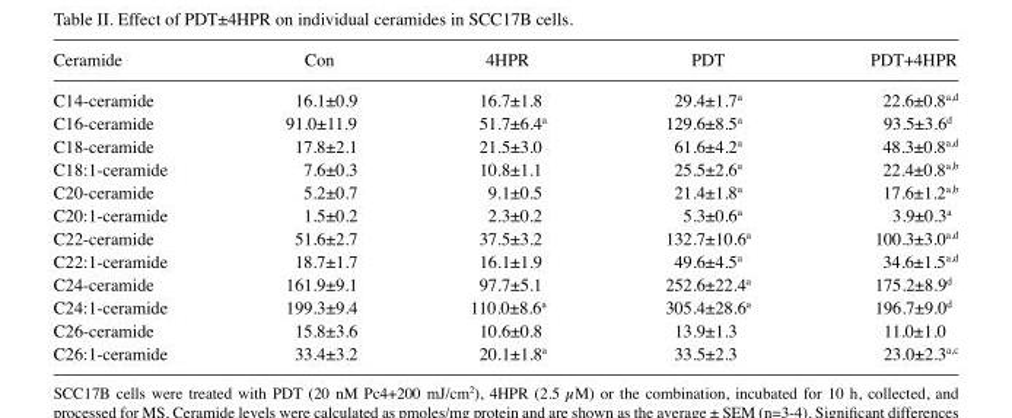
<table><thead><tr><td>Ceramide</td><td>Con</td><td>4HPR</td><td>PDT</td><td>PDT+4HPR</td></tr></thead><tbody><tr><td>C14-ceramide</td><td>16.1±0.9</td><td>16.7±1.8</td><td>29.4±1.7<sup>a</sup></td><td>22.6±0.8<sup>a</sup>,<sup>d</sup></td></tr><tr><td>C16-ceramide</td><td>91.0±11.9</td><td>51.7±6.4<sup>a</sup></td><td>129.6±8.5<sup>a</sup></td><td>93.5±3.6<sup>d</sup></td></tr><tr><td>C18-ceramide</td><td>17.8±2.1</td><td>21.5±3.0</td><td>61.6±4.2<sup>a</sup></td><td>48.3±0.8<sup>a</sup>,<sup>d</sup></td></tr><tr><td>C18:1-ceramide</td><td>7.6±0.3</td><td>10.8±1.1</td><td>25.5±2.6<sup>a</sup></td><td>22.4±0.8<sup>a</sup>,<sup>b</sup></td></tr><tr><td>C20-ceramide</td><td>5.2±0.7</td><td>9.1±0.5</td><td>21.4±1.8<sup>a</sup></td><td>17.6±1.2<sup>a</sup>,<sup>b</sup></td></tr><tr><td>C20:1-ceramide</td><td>1.5±0.2</td><td>2.3±0.2</td><td>5.3±0.6<sup>a</sup></td><td>3.9±0.3<sup>a</sup></td></tr><tr><td>C22-ceramide</td><td>51.6±2.7</td><td>37.5±3.2</td><td>132.7±10.6<sup>a</sup></td><td>100.3±3.0<sup>a</sup>,<sup>d</sup></td></tr><tr><td>C22:1-ceramide</td><td>18.7±1.7</td><td>16.1±1.9</td><td>49.6±4.5<sup>a</sup></td><td>34.6±1.5<sup>a</sup>,<sup>d</sup></td></tr><tr><td>C24-ceramide</td><td>161.9±9.1</td><td>97.7±5.1</td><td>252.6±22.4<sup>a</sup></td><td>175.2±8.9<sup>d</sup></td></tr><tr><td>C24:1-ceramide</td><td>199.3±9.4</td><td>110.0±8.6<sup>a</sup></td><td>305.4±28.6<sup>a</sup></td><td>196.7±9.0<sup>d</sup></td></tr><tr><td>C26-ceramide</td><td>15.8±3.6</td><td>10.6±0.8</td><td>13.9±1.3</td><td>11.0±1.0</td></tr><tr><td>C26:1-ceramide</td><td>33.4±3.2</td><td>20.1±1.8<sup>a</sup></td><td>33.5±2.3</td><td>23.0±2.3<sup>a</sup>,<sup>c</sup></td></tr></tbody></table>